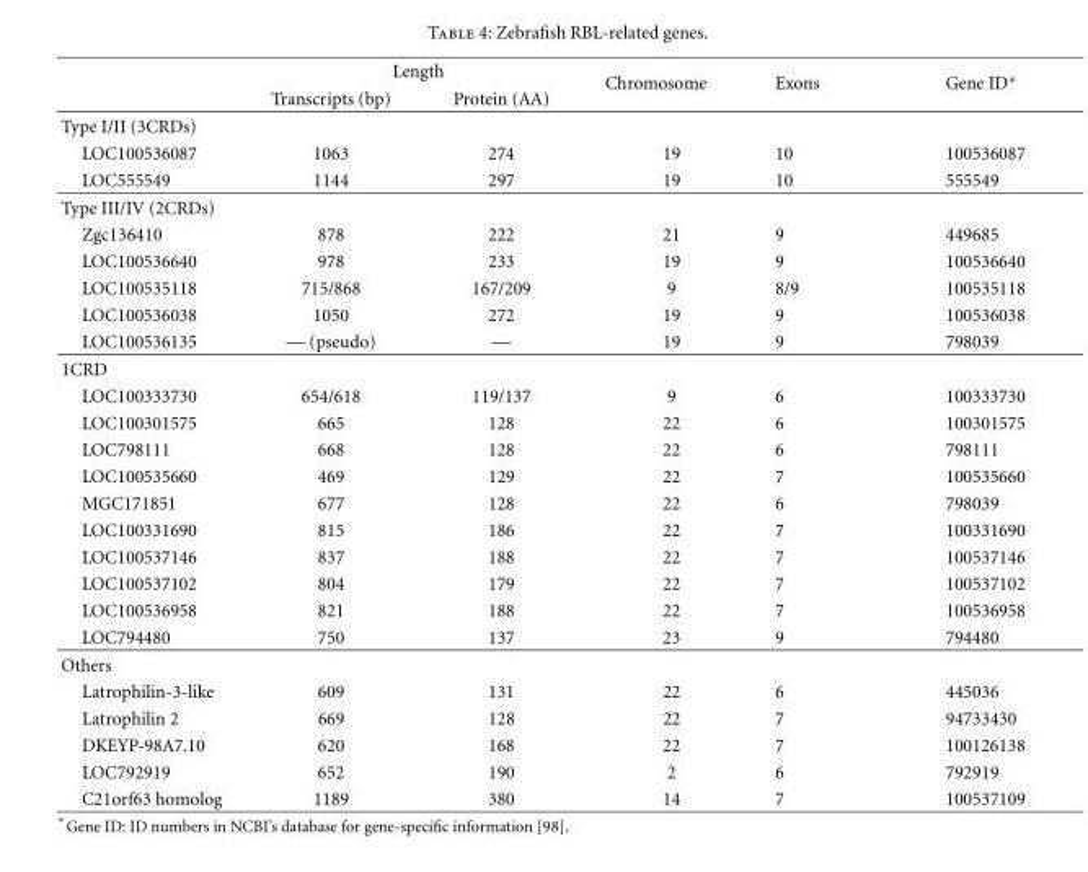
<table><thead><tr><td rowspan="2"></td><td colspan="2">Length</td><td rowspan="2">Chromosome</td><td rowspan="2">Exons</td><td rowspan="2">Gene ID∗</td></tr><tr><td>Transcripts (bp)</td><td>Protein (AA)</td></tr></thead><tbody><tr><td colspan="6">Type I/II (3CRDs)</td></tr><tr><td>LOC100536087</td><td>1063</td><td>274</td><td>19</td><td>10</td><td>100536087</td></tr><tr><td>LOC555549</td><td>1144</td><td>297</td><td>19</td><td>10</td><td>555549</td></tr><tr><td colspan="6">Type III/IV (2CRDs)</td></tr><tr><td>Zgc136410</td><td>878</td><td>222</td><td>21</td><td>9</td><td>449685</td></tr><tr><td>LOC100536640</td><td>978</td><td>233</td><td>19</td><td>9</td><td>100536640</td></tr><tr><td>LOC100535118</td><td>715/868</td><td>167/209</td><td>9</td><td>8/9</td><td>100535118</td></tr><tr><td>LOC100536038</td><td>1050</td><td>272</td><td>19</td><td>9</td><td>100536038</td></tr><tr><td>LOC100536135</td><td>— (pseudo)</td><td>—</td><td>19</td><td>9</td><td>798039</td></tr><tr><td colspan="6">1CRD</td></tr><tr><td>LOC100333730</td><td>654/618</td><td>119/137</td><td>9</td><td>6</td><td>100333730</td></tr><tr><td>LOC100301575</td><td>665</td><td>128</td><td>22</td><td>6</td><td>100301575</td></tr><tr><td>LOC798111</td><td>668</td><td>128</td><td>22</td><td>6</td><td>798111</td></tr><tr><td>LOC100535660</td><td>469</td><td>129</td><td>22</td><td>7</td><td>100535660</td></tr><tr><td>MGC171851</td><td>677</td><td>128</td><td>22</td><td>6</td><td>798039</td></tr><tr><td>LOC100331690</td><td>815</td><td>186</td><td>22</td><td>7</td><td>100331690</td></tr><tr><td>LOC100537146</td><td>837</td><td>188</td><td>22</td><td>7</td><td>100537146</td></tr><tr><td>LOC100537102</td><td>804</td><td>179</td><td>22</td><td>7</td><td>100537102</td></tr><tr><td>LOC100536958</td><td>821</td><td>188</td><td>22</td><td>7</td><td>100536958</td></tr><tr><td>LOC794480</td><td>750</td><td>137</td><td>23</td><td>9</td><td>794480</td></tr><tr><td colspan="6">Others</td></tr><tr><td>Latrophilin-3-like</td><td>609</td><td>131</td><td>22</td><td>6</td><td>445036</td></tr><tr><td>Latrophilin 2</td><td>669</td><td>128</td><td>22</td><td>7</td><td>94733430</td></tr><tr><td>DKEYP-98A7.10</td><td>620</td><td>168</td><td>22</td><td>7</td><td>100126138</td></tr><tr><td>LOC792919</td><td>652</td><td>190</td><td>2</td><td>6</td><td>792919</td></tr><tr><td>C21orf63 homolog</td><td>1189</td><td>380</td><td>14</td><td>7</td><td>100537109</td></tr></tbody></table>